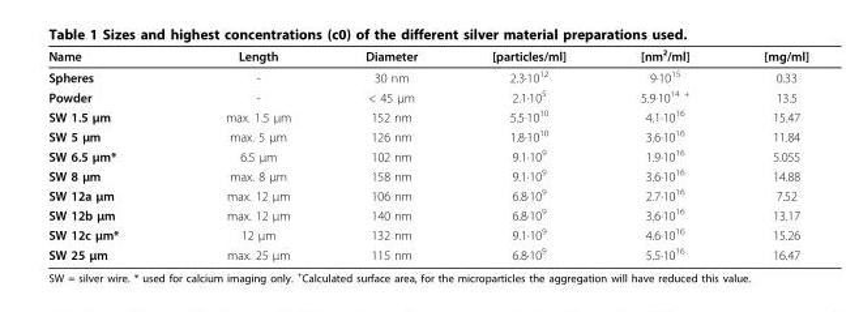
<table><thead><tr><td>Name</td><td>Length</td><td>Diameter</td><td>[particles/ml]</td><td>[nm²/ml]</td><td>[mg/ml]</td></tr></thead><tbody><tr><td>Spheres</td><td>-</td><td>30 nm</td><td>2.3·10<sup>12</sup></td><td>9·10<sup>15</sup></td><td>0.33</td></tr><tr><td>Powder</td><td>-</td><td>&lt; 45 μm</td><td>2.1·10<sup>5</sup></td><td>5.9·10<sup>14 +</sup></td><td>13.5</td></tr><tr><td>SW 1.5 μm</td><td>max. 1.5 μm</td><td>152 nm</td><td>5.5·10<sup>10</sup></td><td>4.1·10<sup>16</sup></td><td>15.47</td></tr><tr><td>SW 5 μm</td><td>max. 5 μm</td><td>126 nm</td><td>1.8·10<sup>10</sup></td><td>3.6·10<sup>16</sup></td><td>11.84</td></tr><tr><td>SW 6.5 μm*</td><td>6.5 μm</td><td>102 nm</td><td>9.1·10<sup>9</sup></td><td>1.9·10<sup>16</sup></td><td>5.055</td></tr><tr><td>SW 8 μm</td><td>max. 8 μm</td><td>158 nm</td><td>9.1·10<sup>9</sup></td><td>3.6·10<sup>16</sup></td><td>14.88</td></tr><tr><td>SW 12a μm</td><td>max. 12 μm</td><td>106 nm</td><td>6.8·10<sup>9</sup></td><td>2.7·10<sup>16</sup></td><td>7.52</td></tr><tr><td>SW 12b μm</td><td>max. 12 μm</td><td>140 nm</td><td>6.8·10<sup>9</sup></td><td>3.6·10<sup>16</sup></td><td>13.17</td></tr><tr><td>SW 12c μm*</td><td>12 μm</td><td>132 nm</td><td>9.1·10<sup>9</sup></td><td>4.6·10<sup>16</sup></td><td>15.26</td></tr><tr><td>SW 25 μm</td><td>max. 25 μm</td><td>115 nm</td><td>6.8·10<sup>9</sup></td><td>5.5·10<sup>16</sup></td><td>16.47</td></tr></tbody></table>